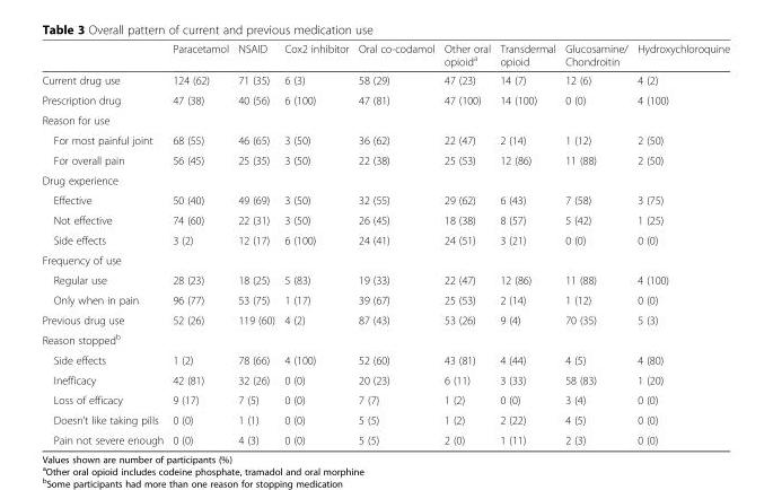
<table><thead><tr><td></td><td>Paracetamol</td><td>NSAID</td><td>Cox2 inhibitor</td><td>Oral co-codamol</td><td>Other oral opioid<sup>a</sup></td><td>Transdermal opioid</td><td>Glucosamine/ Chondroitin</td><td>Hydroxychloroquine</td></tr></thead><tbody><tr><td>Current drug use</td><td>124 (62)</td><td>71 (35)</td><td>6 (3)</td><td>58 (29)</td><td>47 (23)</td><td>14 (7)</td><td>12 (6)</td><td>4 (2)</td></tr><tr><td>Prescription drug</td><td>47 (38)</td><td>40 (56)</td><td>6 (100)</td><td>47 (81)</td><td>47 (100)</td><td>14 (100)</td><td>0 (0)</td><td>4 (100)</td></tr><tr><td colspan="9">Reason for use</td></tr><tr><td>For most painful joint</td><td>68 (55)</td><td>46 (65)</td><td>3 (50)</td><td>36 (62)</td><td>22 (47)</td><td>2 (14)</td><td>1 (12)</td><td>2 (50)</td></tr><tr><td>For overall pain</td><td>56 (45)</td><td>25 (35)</td><td>3 (50)</td><td>22 (38)</td><td>25 (53)</td><td>12 (86)</td><td>11 (88)</td><td>2 (50)</td></tr><tr><td colspan="9">Drug experience</td></tr><tr><td>Effective</td><td>50 (40)</td><td>49 (69)</td><td>3 (50)</td><td>32 (55)</td><td>29 (62)</td><td>6 (43)</td><td>7 (58)</td><td>3 (75)</td></tr><tr><td>Not effective</td><td>74 (60)</td><td>22 (31)</td><td>3 (50)</td><td>26 (45)</td><td>18 (38)</td><td>8 (57)</td><td>5 (42)</td><td>1 (25)</td></tr><tr><td>Side effects</td><td>3 (2)</td><td>12 (17)</td><td>6 (100)</td><td>24 (41)</td><td>24 (51)</td><td>3 (21)</td><td>0 (0)</td><td>0 (0)</td></tr><tr><td colspan="9">Frequency of use</td></tr><tr><td>Regular use</td><td>28 (23)</td><td>18 (25)</td><td>5 (83)</td><td>19 (33)</td><td>22 (47)</td><td>12 (86)</td><td>11 (88)</td><td>4 (100)</td></tr><tr><td>Only when in pain</td><td>96 (77)</td><td>53 (75)</td><td>1 (17)</td><td>39 (67)</td><td>25 (53)</td><td>2 (14)</td><td>1 (12)</td><td>0 (0)</td></tr><tr><td>Previous drug use</td><td>52 (26)</td><td>119 (60)</td><td>4 (2)</td><td>87 (43)</td><td>53 (26)</td><td>9 (4)</td><td>70 (35)</td><td>5 (3)</td></tr><tr><td colspan="9">Reason stopped<sup>b</sup></td></tr><tr><td>Side effects</td><td>1 (2)</td><td>78 (66)</td><td>4 (100)</td><td>52 (60)</td><td>43 (81)</td><td>4 (44)</td><td>4 (5)</td><td>4 (80)</td></tr><tr><td>Inefficacy</td><td>42 (81)</td><td>32 (26)</td><td>0 (0)</td><td>20 (23)</td><td>6 (11)</td><td>3 (33)</td><td>58 (83)</td><td>1 (20)</td></tr><tr><td>Loss of efficacy</td><td>9 (17)</td><td>7 (5)</td><td>0 (0)</td><td>7 (7)</td><td>1 (2)</td><td>0 (0)</td><td>3 (4)</td><td>0 (0)</td></tr><tr><td>Doesn’t like taking pills</td><td>0 (0)</td><td>1 (1)</td><td>0 (0)</td><td>5 (5)</td><td>1 (2)</td><td>2 (22)</td><td>4 (5)</td><td>0 (0)</td></tr><tr><td>Pain not severe enough</td><td>0 (0)</td><td>4 (3)</td><td>0 (0)</td><td>5 (5)</td><td>2 (0)</td><td>1 (11)</td><td>2 (3)</td><td>0 (0)</td></tr></tbody></table>